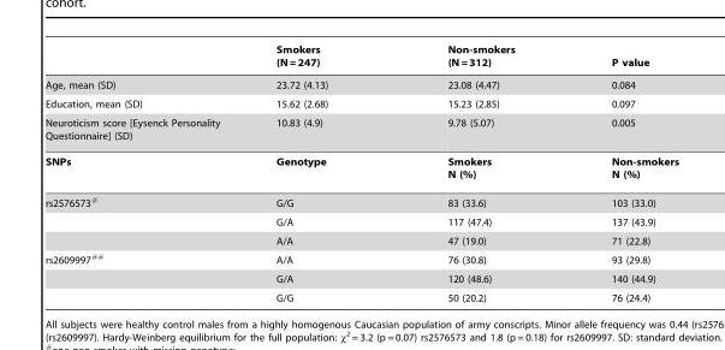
<table><thead><tr><td></td><td>Smokers (N = 247)</td><td>Non-smokers (N = 312)</td><td>P value</td></tr></thead><tbody><tr><td>Age, mean (SD)</td><td>23.72 (4.13)</td><td>23.08 (4.47)</td><td>0.084</td></tr><tr><td>Education, mean (SD)</td><td>15.62 (2.68)</td><td>15.23 (2.85)</td><td>0.097</td></tr><tr><td>Neuroticism score [Eysenck Personality Questionnaire] (SD)</td><td>10.83 (4.9)</td><td>9.78 (5.07)</td><td>0.005</td></tr><tr><td>SNPs</td><td>Genotype</td><td>Smokers N (%)</td><td>Non-smokers N (%)</td></tr><tr><td rowspan="3">rs2576573#</td><td>G/G</td><td>83 (33.6)</td><td>103 (33.0)</td></tr><tr><td>G/A</td><td>117 (47.4)</td><td>137 (43.9)</td></tr><tr><td>A/A</td><td>47 (19.0)</td><td>71 (22.8)</td></tr><tr><td rowspan="3">rs2609997##</td><td>A/A</td><td>76 (30.8)</td><td>93 (29.8)</td></tr><tr><td>G/A</td><td>120 (48.6)</td><td>140 (44.9)</td></tr><tr><td>G/G</td><td>50 (20.2)</td><td>76 (24.4)</td></tr></tbody></table>